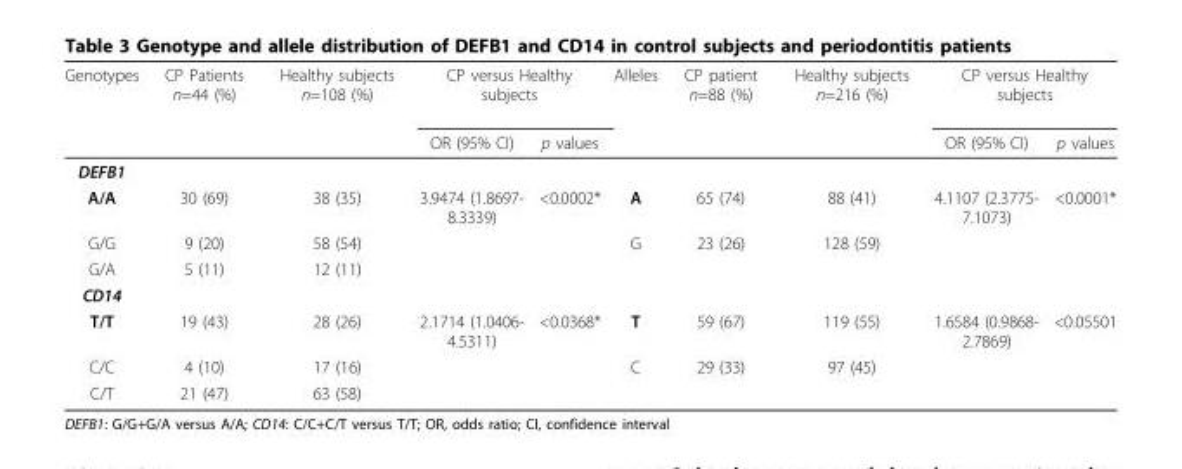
<table><thead><tr><td rowspan="2">Genotypes</td><td rowspan="2">CP Patients n=44 (%)</td><td rowspan="2">Healthy subjects n=108 (%)</td><td colspan="2">CP versus Healthy subjects</td><td rowspan="2">Alleles</td><td rowspan="2">CP patient n=88 (%)</td><td rowspan="2">Healthy subjects n=216 (%)</td><td colspan="2">CP versus Healthy subjects</td></tr><tr><td>OR (95% CI)</td><td>p values</td><td>OR (95% CI)</td><td>p values</td></tr></thead><tbody><tr><td colspan="10">DEFB1</td></tr><tr><td>A/A</td><td>30 (69)</td><td>38 (35)</td><td>3.9474 (1.8697- 8.3339)</td><td>&lt;0.0002*</td><td>A</td><td>65 (74)</td><td>88 (41)</td><td>4.1107 (2.3775- 7.1073)</td><td>&lt;0.0001*</td></tr><tr><td>G/G</td><td>9 (20)</td><td>58 (54)</td><td></td><td></td><td>G</td><td>23 (26)</td><td>128 (59)</td><td></td><td></td></tr><tr><td>G/A</td><td>5 (11)</td><td>12 (11)</td><td></td><td></td><td></td><td></td><td></td><td></td><td></td></tr><tr><td colspan="10">CD14</td></tr><tr><td>T/T</td><td>19 (43)</td><td>28 (26)</td><td>2.1714 (1.0406- 4.5311)</td><td>&lt;0.0368*</td><td>T</td><td>59 (67)</td><td>119 (55)</td><td>1.6584 (0.9868- 2.7869)</td><td>&lt;0.05501</td></tr><tr><td>C/C</td><td>4 (10)</td><td>17 (16)</td><td></td><td></td><td>C</td><td>29 (33)</td><td>97 (45)</td><td></td><td></td></tr><tr><td>C/T</td><td>21 (47)</td><td>63 (58)</td><td></td><td></td><td></td><td></td><td></td><td></td><td></td></tr></tbody></table>